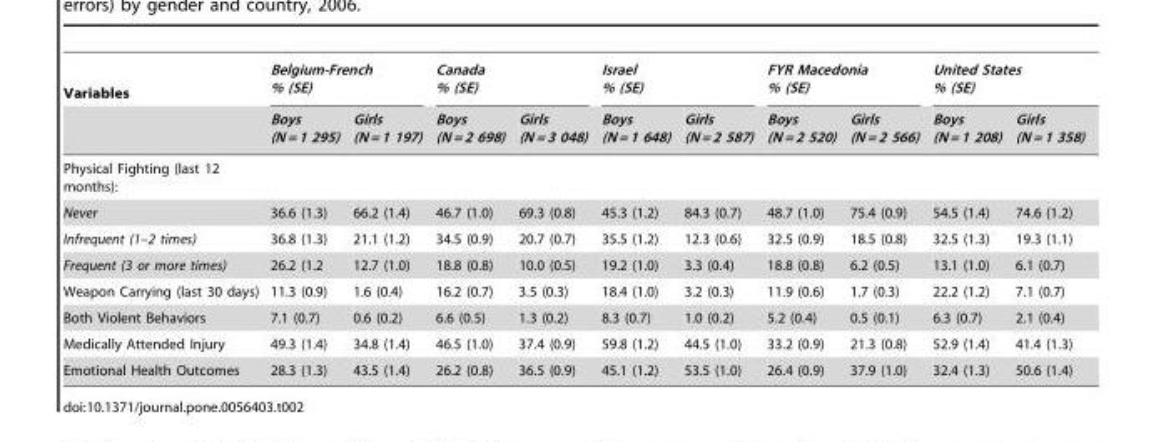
<table><thead><tr><td rowspan="2">Variables</td><td colspan="2">Belgium-French % (SE)</td><td colspan="2">Canada % (SE)</td><td colspan="2">Israel % (SE)</td><td colspan="2">FYR Macedonia % (SE)</td><td colspan="2">United States % (SE)</td></tr><tr><td>Boys (N = 1 295)</td><td>Girls (N = 1 197)</td><td>Boys (N = 2 698)</td><td>Girls (N = 3 048)</td><td>Boys (N = 1 648)</td><td>Girls (N = 2 587)</td><td>Boys (N = 2 520)</td><td>Girls (N = 2 566)</td><td>Boys (N = 1 208)</td><td>Girls (N = 1 358)</td></tr></thead><tbody><tr><td colspan="11">Physical Fighting (last 12 months):</td></tr><tr><td>Never</td><td>36.6 (1.3)</td><td>66.2 (1.4)</td><td>46.7 (1.0)</td><td>69.3 (0.8)</td><td>45.3 (1.2)</td><td>84.3 (0.7)</td><td>48.7 (1.0)</td><td>75.4 (0.9)</td><td>54.5 (1.4)</td><td>74.6 (1.2)</td></tr><tr><td>Infrequent (1–2 times)</td><td>36.8 (1.3)</td><td>21.1 (1.2)</td><td>34.5 (0.9)</td><td>20.7 (0.7)</td><td>35.5 (1.2)</td><td>12.3 (0.6)</td><td>32.5 (0.9)</td><td>18.5 (0.8)</td><td>32.5 (1.3)</td><td>19.3 (1.1)</td></tr><tr><td>Frequent (3 or more times)</td><td>26.2 (1.2</td><td>12.7 (1.0)</td><td>18.8 (0.8)</td><td>10.0 (0.5)</td><td>19.2 (1.0)</td><td>3.3 (0.4)</td><td>18.8 (0.8)</td><td>6.2 (0.5)</td><td>13.1 (1.0)</td><td>6.1 (0.7)</td></tr><tr><td>Weapon Carrying (last 30 days)</td><td>11.3 (0.9)</td><td>1.6 (0.4)</td><td>16.2 (0.7)</td><td>3.5 (0.3)</td><td>18.4 (1.0)</td><td>3.2 (0.3)</td><td>11.9 (0.6)</td><td>1.7 (0.3)</td><td>22.2 (1.2)</td><td>7.1 (0.7)</td></tr><tr><td>Both Violent Behaviors</td><td>7.1 (0.7)</td><td>0.6 (0.2)</td><td>6.6 (0.5)</td><td>1.3 (0.2)</td><td>8.3 (0.7)</td><td>1.0 (0.2)</td><td>5.2 (0.4)</td><td>0.5 (0.1)</td><td>6.3 (0.7)</td><td>2.1 (0.4)</td></tr><tr><td>Medically Attended Injury</td><td>49.3 (1.4)</td><td>34.8 (1.4)</td><td>46.5 (1.0)</td><td>37.4 (0.9)</td><td>59.8 (1.2)</td><td>44.5 (1.0)</td><td>33.2 (0.9)</td><td>21.3 (0.8)</td><td>52.9 (1.4)</td><td>41.4 (1.3)</td></tr><tr><td>Emotional Health Outcomes</td><td>28.3 (1.3)</td><td>43.5 (1.4)</td><td>26.2 (0.8)</td><td>36.5 (0.9)</td><td>45.1 (1.2)</td><td>53.5 (1.0)</td><td>26.4 (0.9)</td><td>37.9 (1.0)</td><td>32.4 (1.3)</td><td>50.6 (1.4)</td></tr></tbody></table>